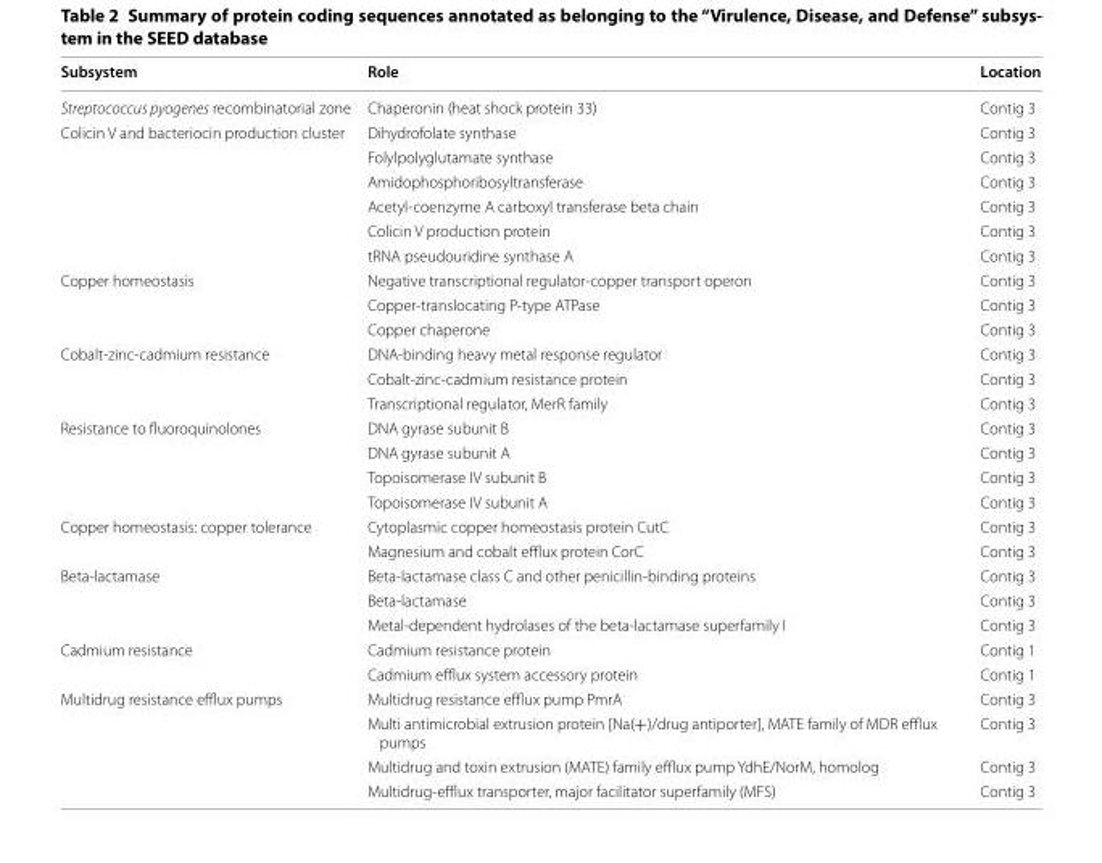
<table><thead><tr><td>Subsystem</td><td>Role</td><td>Location</td></tr></thead><tbody><tr><td>Streptococcus pyogenes recombinatorial zone</td><td>Chaperonin (heat shock protein 33)</td><td>Contig 3</td></tr><tr><td rowspan="6">Colicin V and bacteriocin production cluster</td><td>Dihydrofolate synthase</td><td>Contig 3</td></tr><tr><td>Folylpolyglutamate synthase</td><td>Contig 3</td></tr><tr><td>Amidophosphoribosyltransferase</td><td>Contig 3</td></tr><tr><td>Acetyl‑coenzyme A carboxyl transferase beta chain</td><td>Contig 3</td></tr><tr><td>Colicin V production protein</td><td>Contig 3</td></tr><tr><td>tRNA pseudouridine synthase A</td><td>Contig 3</td></tr><tr><td rowspan="3">Copper homeostasis</td><td>Negative transcriptional regulator‑copper transport operon</td><td>Contig 3</td></tr><tr><td>Copper‑translocating P‑type ATPase</td><td>Contig 3</td></tr><tr><td>Copper chaperone</td><td>Contig 3</td></tr><tr><td rowspan="3">Cobalt‑zinc‑cadmium resistance</td><td>DNA‑binding heavy metal response regulator</td><td>Contig 3</td></tr><tr><td>Cobalt‑zinc‑cadmium resistance protein</td><td>Contig 3</td></tr><tr><td>Transcriptional regulator, MerR family</td><td>Contig 3</td></tr><tr><td rowspan="4">Resistance to fluoroquinolones</td><td>DNA gyrase subunit B</td><td>Contig 3</td></tr><tr><td>DNA gyrase subunit A</td><td>Contig 3</td></tr><tr><td>Topoisomerase IV subunit B</td><td>Contig 3</td></tr><tr><td>Topoisomerase IV subunit A</td><td>Contig 3</td></tr><tr><td rowspan="2">Copper homeostasis: copper tolerance</td><td>Cytoplasmic copper homeostasis protein CutC</td><td>Contig 3</td></tr><tr><td>Magnesium and cobalt efflux protein CorC</td><td>Contig 3</td></tr><tr><td rowspan="3">Beta‑lactamase</td><td>Beta‑lactamase class C and other penicillin‑binding proteins</td><td>Contig 3</td></tr><tr><td>Beta‑lactamase</td><td>Contig 3</td></tr><tr><td>Metal‑dependent hydrolases of the beta‑lactamase superfamily I</td><td>Contig 3</td></tr><tr><td rowspan="2">Cadmium resistance</td><td>Cadmium resistance protein</td><td>Contig 1</td></tr><tr><td>Cadmium efflux system accessory protein</td><td>Contig 1</td></tr><tr><td rowspan="4">Multidrug resistance efflux pumps</td><td>Multidrug resistance efflux pump PmrA</td><td>Contig 3</td></tr><tr><td>Multi antimicrobial extrusion protein [Na(+)/drug antiporter], MATE family of MDR efflux pumps</td><td>Contig 3</td></tr><tr><td>Multidrug and toxin extrusion (MATE) family efflux pump YdhE/NorM, homolog</td><td>Contig 3</td></tr><tr><td>Multidrug‑efflux transporter, major facilitator superfamily (MFS)</td><td>Contig 3</td></tr></tbody></table>